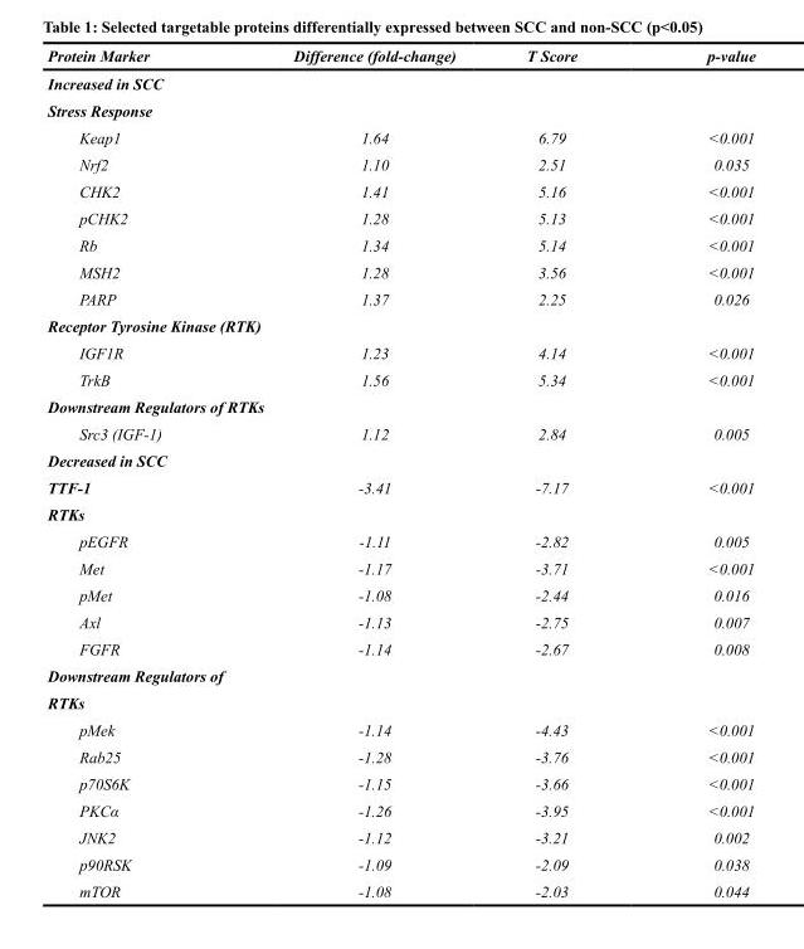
<table><thead><tr><td>Protein Marker</td><td>Difference (fold-change)</td><td>T Score</td><td>p-value</td></tr></thead><tbody><tr><td colspan="4">Increased in SCC</td></tr><tr><td colspan="4">Stress Response</td></tr><tr><td>Keap1</td><td>1.64</td><td>6.79</td><td>&lt;0.001</td></tr><tr><td>Nrf2</td><td>1.10</td><td>2.51</td><td>0.035</td></tr><tr><td>CHK2</td><td>1.41</td><td>5.16</td><td>&lt;0.001</td></tr><tr><td>pCHK2</td><td>1.28</td><td>5.13</td><td>&lt;0.001</td></tr><tr><td>Rb</td><td>1.34</td><td>5.14</td><td>&lt;0.001</td></tr><tr><td>MSH2</td><td>1.28</td><td>3.56</td><td>&lt;0.001</td></tr><tr><td>PARP</td><td>1.37</td><td>2.25</td><td>0.026</td></tr><tr><td colspan="4">Receptor Tyrosine Kinase (RTK)</td></tr><tr><td>IGF1R</td><td>1.23</td><td>4.14</td><td>&lt;0.001</td></tr><tr><td>TrkB</td><td>1.56</td><td>5.34</td><td>&lt;0.001</td></tr><tr><td colspan="4">Downstream Regulators of RTKs</td></tr><tr><td>Src3 (IGF-1)</td><td>1.12</td><td>2.84</td><td>0.005</td></tr><tr><td colspan="4">Decreased in SCC</td></tr><tr><td>TTF-1</td><td>-3.41</td><td>-7.17</td><td>&lt;0.001</td></tr><tr><td colspan="4">RTKs</td></tr><tr><td>pEGFR</td><td>-1.11</td><td>-2.82</td><td>0.005</td></tr><tr><td>Met</td><td>-1.17</td><td>-3.71</td><td>&lt;0.001</td></tr><tr><td>pMet</td><td>-1.08</td><td>-2.44</td><td>0.016</td></tr><tr><td>Axl</td><td>-1.13</td><td>-2.75</td><td>0.007</td></tr><tr><td>FGFR</td><td>-1.14</td><td>-2.67</td><td>0.008</td></tr><tr><td colspan="4">Downstream Regulators of</td></tr><tr><td colspan="4">RTKs</td></tr><tr><td>pMek</td><td>-1.14</td><td>-4.43</td><td>&lt;0.001</td></tr><tr><td>Rab25</td><td>-1.28</td><td>-3.76</td><td>&lt;0.001</td></tr><tr><td>p70S6K</td><td>-1.15</td><td>-3.66</td><td>&lt;0.001</td></tr><tr><td>PKCα</td><td>-1.26</td><td>-3.95</td><td>&lt;0.001</td></tr><tr><td>JNK2</td><td>-1.12</td><td>-3.21</td><td>0.002</td></tr><tr><td>p90RSK</td><td>-1.09</td><td>-2.09</td><td>0.038</td></tr><tr><td>mTOR</td><td>-1.08</td><td>-2.03</td><td>0.044</td></tr></tbody></table>